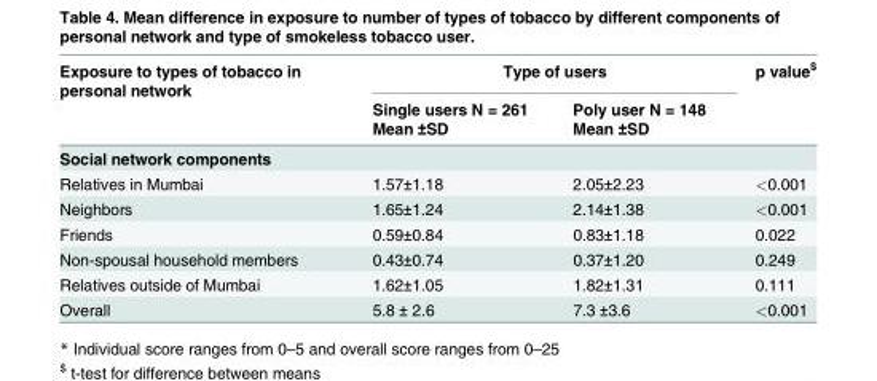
<table><thead><tr><td rowspan="2">Exposure to types of tobacco in personal network</td><td colspan="2">Type of users</td><td rowspan="2">p value<sup>$</sup></td></tr><tr><td>Single users N = 261 Mean ±SD</td><td>Poly user N = 148 Mean ±SD</td></tr></thead><tbody><tr><td colspan="4">Social network components</td></tr><tr><td>Relatives in Mumbai</td><td>1.57±1.18</td><td>2.05±2.23</td><td>&lt;0.001</td></tr><tr><td>Neighbors</td><td>1.65±1.24</td><td>2.14±1.38</td><td>&lt;0.001</td></tr><tr><td>Friends</td><td>0.59±0.84</td><td>0.83±1.18</td><td>0.022</td></tr><tr><td>Non-spousal household members</td><td>0.43±0.74</td><td>0.37±1.20</td><td>0.249</td></tr><tr><td>Relatives outside of Mumbai</td><td>1.62±1.05</td><td>1.82±1.31</td><td>0.111</td></tr><tr><td>Overall</td><td>5.8 ± 2.6</td><td>7.3 ±3.6</td><td>&lt;0.001</td></tr></tbody></table>